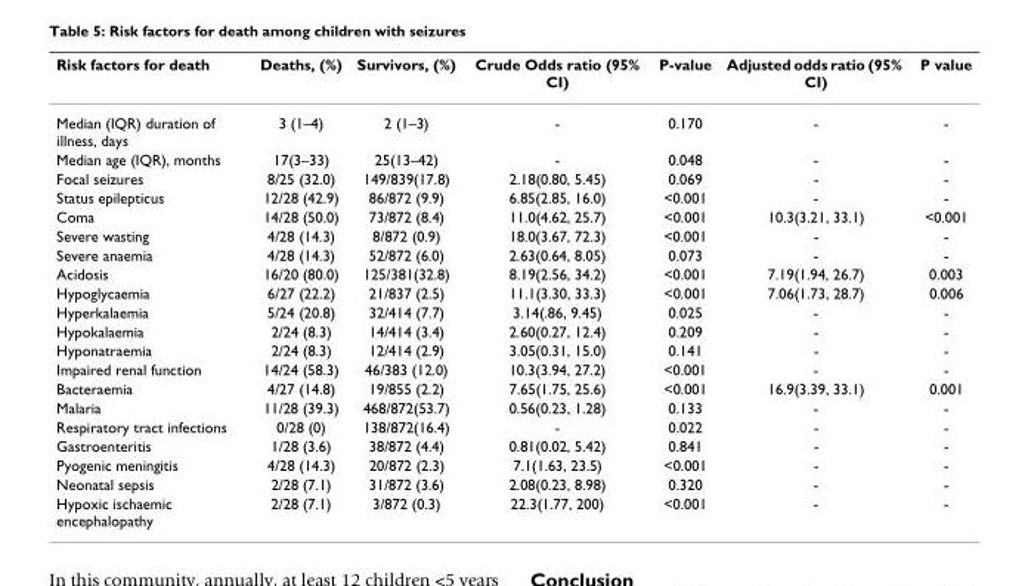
<table><thead><tr><td>Risk factors for death</td><td>Deaths, (%)</td><td>Survivors, (%)</td><td>Crude Odds ratio (95% CI)</td><td>P-value</td><td>Adjusted odds ratio (95% CI)</td><td>P value</td></tr></thead><tbody><tr><td>Median (IQR) duration of illness, days</td><td>3 (1–4)</td><td>2 (1–3)</td><td>-</td><td>0.170</td><td>-</td><td>-</td></tr><tr><td>Median age (IQR), months</td><td>17(3–33)</td><td>25(13–42)</td><td>-</td><td>0.048</td><td>-</td><td>-</td></tr><tr><td>Focal seizures</td><td>8/25 (32.0)</td><td>149/839(17.8)</td><td>2.18(0.80, 5.45)</td><td>0.069</td><td>-</td><td>-</td></tr><tr><td>Status epilepticus</td><td>12/28 (42.9)</td><td>86/872 (9.9)</td><td>6.85(2.85, 16.0)</td><td>&lt;0.001</td><td>-</td><td>-</td></tr><tr><td>Coma</td><td>14/28 (50.0)</td><td>73/872 (8.4)</td><td>11.0(4.62, 25.7)</td><td>&lt;0.001</td><td>10.3(3.21, 33.1)</td><td>&lt;0.001</td></tr><tr><td>Severe wasting</td><td>4/28 (14.3)</td><td>8/872 (0.9)</td><td>18.0(3.67, 72.3)</td><td>&lt;0.001</td><td>-</td><td>-</td></tr><tr><td>Severe anaemia</td><td>4/28 (14.3)</td><td>52/872 (6.0)</td><td>2.63(0.64, 8.05)</td><td>0.073</td><td>-</td><td>-</td></tr><tr><td>Acidosis</td><td>16/20 (80.0)</td><td>125/381(32.8)</td><td>8.19(2.56, 34.2)</td><td>&lt;0.001</td><td>7.19(1.94, 26.7)</td><td>0.003</td></tr><tr><td>Hypoglycaemia</td><td>6/27 (22.2)</td><td>21/837 (2.5)</td><td>11.1(3.30, 33.3)</td><td>&lt;0.001</td><td>7.06(1.73, 28.7)</td><td>0.006</td></tr><tr><td>Hyperkalaemia</td><td>5/24 (20.8)</td><td>32/414 (7.7)</td><td>3.14(.86, 9.45)</td><td>0.025</td><td>-</td><td>-</td></tr><tr><td>Hypokalaemia</td><td>2/24 (8.3)</td><td>14/414 (3.4)</td><td>2.60(0.27, 12.4)</td><td>0.209</td><td>-</td><td>-</td></tr><tr><td>Hyponatraemia</td><td>2/24 (8.3)</td><td>12/414 (2.9)</td><td>3.05(0.31, 15.0)</td><td>0.141</td><td>-</td><td>-</td></tr><tr><td>Impaired renal function</td><td>14/24 (58.3)</td><td>46/383 (12.0)</td><td>10.3(3.94, 27.2)</td><td>&lt;0.001</td><td>-</td><td>-</td></tr><tr><td>Bacteraemia</td><td>4/27 (14.8)</td><td>19/855 (2.2)</td><td>7.65(1.75, 25.6)</td><td>&lt;0.001</td><td>16.9(3.39, 33.1)</td><td>0.001</td></tr><tr><td>Malaria</td><td>11/28 (39.3)</td><td>468/872(53.7)</td><td>0.56(0.23, 1.28)</td><td>0.133</td><td>-</td><td>-</td></tr><tr><td>Respiratory tract infections</td><td>0/28 (0)</td><td>138/872(16.4)</td><td>-</td><td>0.022</td><td>-</td><td>-</td></tr><tr><td>Gastroenteritis</td><td>1/28 (3.6)</td><td>38/872 (4.4)</td><td>0.81(0.02, 5.42)</td><td>0.841</td><td>-</td><td>-</td></tr><tr><td>Pyogenic meningitis</td><td>4/28 (14.3)</td><td>20/872 (2.3)</td><td>7.1(1.63, 23.5)</td><td>&lt;0.001</td><td>-</td><td>-</td></tr><tr><td>Neonatal sepsis</td><td>2/28 (7.1)</td><td>31/872 (3.6)</td><td>2.08(0.23, 8.98)</td><td>0.320</td><td>-</td><td>-</td></tr><tr><td>Hypoxic ischaemic encephalopathy</td><td>2/28 (7.1)</td><td>3/872 (0.3)</td><td>22.3(1.77, 200)</td><td>&lt;0.001</td><td>-</td><td>-</td></tr></tbody></table>